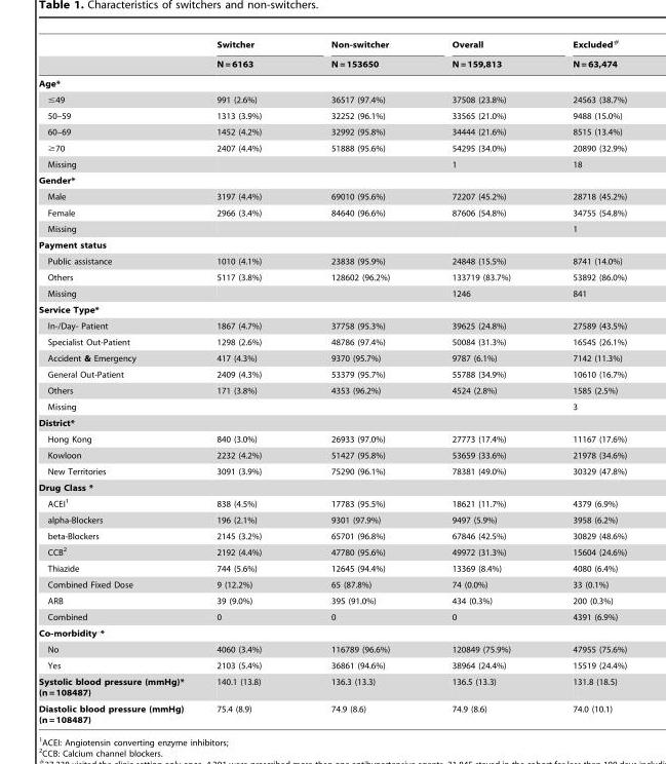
<table><thead><tr><td rowspan="2"></td><td rowspan="2">Switcher N = 6163</td><td rowspan="2">Non-switcher N = 153650</td><td rowspan="2">Overall N = 159,813</td><td rowspan="2">Excluded# N = 63,474</td></tr><tr></tr></thead><tbody><tr><td colspan="5">Age*</td></tr><tr><td>≤49</td><td>991 (2.6%)</td><td>36517 (97.4%)</td><td>37508 (23.8%)</td><td>24563 (38.7%)</td></tr><tr><td>50–59</td><td>1313 (3.9%)</td><td>32252 (96.1%)</td><td>33565 (21.0%)</td><td>9488 (15.0%)</td></tr><tr><td>60–69</td><td>1452 (4.2%)</td><td>32992 (95.8%)</td><td>34444 (21.6%)</td><td>8515 (13.4%)</td></tr><tr><td>≥70</td><td>2407 (4.4%)</td><td>51888 (95.6%)</td><td>54295 (34.0%)</td><td>20890 (32.9%)</td></tr><tr><td>Missing</td><td></td><td></td><td>1</td><td>18</td></tr><tr><td colspan="5">Gender*</td></tr><tr><td>Male</td><td>3197 (4.4%)</td><td>69010 (95.6%)</td><td>72207 (45.2%)</td><td>28718 (45.2%)</td></tr><tr><td>Female</td><td>2966 (3.4%)</td><td>84640 (96.6%)</td><td>87606 (54.8%)</td><td>34755 (54.8%)</td></tr><tr><td>Missing</td><td></td><td></td><td></td><td>1</td></tr><tr><td colspan="5">Payment status</td></tr><tr><td>Public assistance</td><td>1010 (4.1%)</td><td>23838 (95.9%)</td><td>24848 (15.5%)</td><td>8741 (14.0%)</td></tr><tr><td>Others</td><td>5117 (3.8%)</td><td>128602 (96.2%)</td><td>133719 (83.7%)</td><td>53892 (86.0%)</td></tr><tr><td>Missing</td><td></td><td></td><td>1246</td><td>841</td></tr><tr><td colspan="5">Service Type*</td></tr><tr><td>In-/Day- Patient</td><td>1867 (4.7%)</td><td>37758 (95.3%)</td><td>39625 (24.8%)</td><td>27589 (43.5%)</td></tr><tr><td>Specialist Out-Patient</td><td>1298 (2.6%)</td><td>48786 (97.4%)</td><td>50084 (31.3%)</td><td>16545 (26.1%)</td></tr><tr><td>Accident &amp; Emergency</td><td>417 (4.3%)</td><td>9370 (95.7%)</td><td>9787 (6.1%)</td><td>7142 (11.3%)</td></tr><tr><td>General Out-Patient</td><td>2409 (4.3%)</td><td>53379 (95.7%)</td><td>55788 (34.9%)</td><td>10610 (16.7%)</td></tr><tr><td>Others</td><td>171 (3.8%)</td><td>4353 (96.2%)</td><td>4524 (2.8%)</td><td>1585 (2.5%)</td></tr><tr><td>Missing</td><td></td><td></td><td></td><td>3</td></tr><tr><td colspan="5">District*</td></tr><tr><td>Hong Kong</td><td>840 (3.0%)</td><td>26933 (97.0%)</td><td>27773 (17.4%)</td><td>11167 (17.6%)</td></tr><tr><td>Kowloon</td><td>2232 (4.2%)</td><td>51427 (95.8%)</td><td>53659 (33.6%)</td><td>21978 (34.6%)</td></tr><tr><td>New Territories</td><td>3091 (3.9%)</td><td>75290 (96.1%)</td><td>78381 (49.0%)</td><td>30329 (47.8%)</td></tr><tr><td colspan="5">Drug Class *</td></tr><tr><td>ACEI<sup>1</sup></td><td>838 (4.5%)</td><td>17783 (95.5%)</td><td>18621 (11.7%)</td><td>4379 (6.9%)</td></tr><tr><td>alpha-Blockers</td><td>196 (2.1%)</td><td>9301 (97.9%)</td><td>9497 (5.9%)</td><td>3958 (6.2%)</td></tr><tr><td>beta-Blockers</td><td>2145 (3.2%)</td><td>65701 (96.8%)</td><td>67846 (42.5%)</td><td>30829 (48.6%)</td></tr><tr><td>CCB<sup>2</sup></td><td>2192 (4.4%)</td><td>47780 (95.6%)</td><td>49972 (31.3%)</td><td>15604 (24.6%)</td></tr><tr><td>Thiazide</td><td>744 (5.6%)</td><td>12645 (94.4%)</td><td>13369 (8.4%)</td><td>4080 (6.4%)</td></tr><tr><td>Combined Fixed Dose</td><td>9 (12.2%)</td><td>65 (87.8%)</td><td>74 (0.0%)</td><td>33 (0.1%)</td></tr><tr><td>ARB</td><td>39 (9.0%)</td><td>395 (91.0%)</td><td>434 (0.3%)</td><td>200 (0.3%)</td></tr><tr><td>Combined</td><td>0</td><td>0</td><td>0</td><td>4391 (6.9%)</td></tr><tr><td colspan="5">Co-morbidity‘*</td></tr><tr><td>No</td><td>4060 (3.4%)</td><td>116789 (96.6%)</td><td>120849 (75.9%)</td><td>47955 (75.6%)</td></tr><tr><td>Yes</td><td>2103 (5.4%)</td><td>36861 (94.6%)</td><td>38964 (24.4%)</td><td>15519 (24.4%)</td></tr><tr><td>Systolic blood pressure (mmHg)* (n = 108487)</td><td>140.1 (13.8)</td><td>136.3 (13.3)</td><td>136.5 (13.3)</td><td>131.8 (18.5)</td></tr><tr><td>Diastolic blood pressure (mmHg) (n = 108487)</td><td>75.4 (8.9)</td><td>74.9 (8.6)</td><td>74.9 (8.6)</td><td>74.0 (10.1)</td></tr></tbody></table>